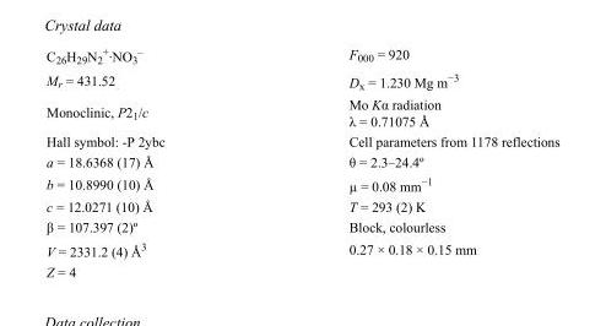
<table><tbody><tr><td>C<sub>26</sub>H<sub>29</sub>N<sub>2</sub> <sup>+</sup>·NO<sub>3</sub> <sup>–</sup></td><td>F<sub>000</sub> = 920</td></tr><tr><td>M<sub>r</sub> = 431.52</td><td>D<sub>x</sub> = 1.230 Mg m<sup>−3</sup></td></tr><tr><td>Monoclinic, P2<sub>1</sub>/c</td><td>Mo Kα radiation λ = 0.71075 Å</td></tr><tr><td>Hall symbol: -P 2ybc</td><td>Cell parameters from 1178 reflections</td></tr><tr><td>a = 18.6368 (17) Å</td><td>θ = 2.3–24.4º</td></tr><tr><td>b = 10.8990 (10) Å</td><td>µ = 0.08 mm<sup>−1</sup></td></tr><tr><td>c = 12.0271 (10) Å</td><td>T = 293 (2) K</td></tr><tr><td>β = 107.397 (2)º</td><td>Block, colourless</td></tr><tr><td>V = 2331.2 (4) Å<sup>3</sup></td><td>0.27 × 0.18 × 0.15 mm</td></tr><tr><td>Z = 4</td><td></td></tr></tbody></table>